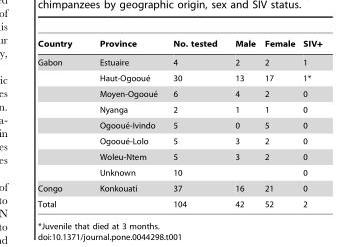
<table><thead><tr><td>Country</td><td>Province</td><td>No. tested</td><td>Male</td><td>Female</td><td>SIV+</td></tr></thead><tbody><tr><td rowspan="8">Gabon</td><td>Estuaire</td><td>4</td><td>2</td><td>2</td><td>1</td></tr><tr><td>Haut-Ogooue´</td><td>30</td><td>13</td><td>17</td><td>1*</td></tr><tr><td>Moyen-Ogooue´</td><td>6</td><td>4</td><td>2</td><td>0</td></tr><tr><td>Nyanga</td><td>2</td><td>1</td><td>1</td><td>0</td></tr><tr><td>Ogooue´-Ivindo</td><td>5</td><td>0</td><td>5</td><td>0</td></tr><tr><td>Ogooue´-Lolo</td><td>5</td><td>3</td><td>2</td><td>0</td></tr><tr><td>Woleu-Ntem</td><td>5</td><td>3</td><td>2</td><td>0</td></tr><tr><td>Unknown</td><td>10</td><td></td><td></td><td>0</td></tr><tr><td>Congo</td><td>Konkouati</td><td>37</td><td>16</td><td>21</td><td>0</td></tr><tr><td>Total</td><td></td><td>104</td><td>42</td><td>52</td><td>2</td></tr></tbody></table>